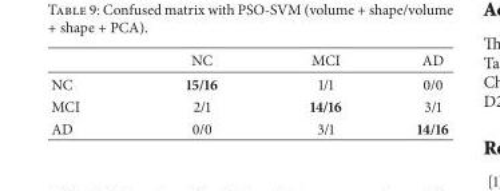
<table><thead><tr><td></td><td>NC</td><td>MCI</td><td>AD</td></tr></thead><tbody><tr><td>NC</td><td>15/16</td><td>1/1</td><td>0/0</td></tr><tr><td>MCI</td><td>2/1</td><td>14/16</td><td>3/1</td></tr><tr><td>AD</td><td>0/0</td><td>3/1</td><td>14/16</td></tr></tbody></table>